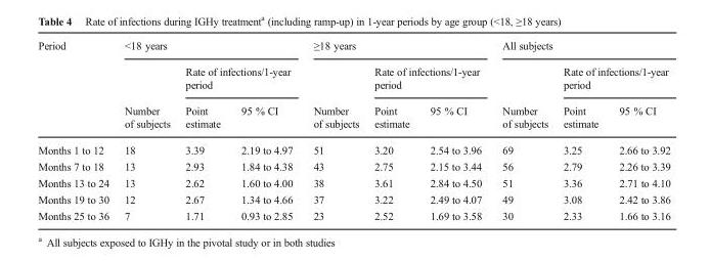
<table><thead><tr><td rowspan="3">Period</td><td colspan="3">&lt;18 years</td><td colspan="3">≥18 years</td><td colspan="3">All subjects</td></tr><tr><td rowspan="2">Number of subjects</td><td colspan="2">Rate of infections/1-year period</td><td rowspan="2">Number of subjects</td><td colspan="2">Rate of infections/1-year period</td><td rowspan="2">Number of subjects</td><td colspan="2">Rate of infections/1-year period</td></tr><tr><td>Point estimate</td><td>95 % CI</td><td>Point estimate</td><td>95 % CI</td><td>Point estimate</td><td>95 % CI</td></tr></thead><tbody><tr><td>Months 1 to 12</td><td>18</td><td>3.39</td><td>2.19 to 4.97</td><td>51</td><td>3.20</td><td>2.54 to 3.96</td><td>69</td><td>3.25</td><td>2.66 to 3.92</td></tr><tr><td>Months 7 to 18</td><td>13</td><td>2.93</td><td>1.84 to 4.38</td><td>43</td><td>2.75</td><td>2.15 to 3.44</td><td>56</td><td>2.79</td><td>2.26 to 3.39</td></tr><tr><td>Months 13 to 24</td><td>13</td><td>2.62</td><td>1.60 to 4.00</td><td>38</td><td>3.61</td><td>2.84 to 4.50</td><td>51</td><td>3.36</td><td>2.71 to 4.10</td></tr><tr><td>Months 19 to 30</td><td>12</td><td>2.67</td><td>1.34 to 4.66</td><td>37</td><td>3.22</td><td>2.49 to 4.07</td><td>49</td><td>3.08</td><td>2.42 to 3.86</td></tr><tr><td>Months 25 to 36</td><td>7</td><td>1.71</td><td>0.93 to 2.85</td><td>23</td><td>2.52</td><td>1.69 to 3.58</td><td>30</td><td>2.33</td><td>1.66 to 3.16</td></tr></tbody></table>